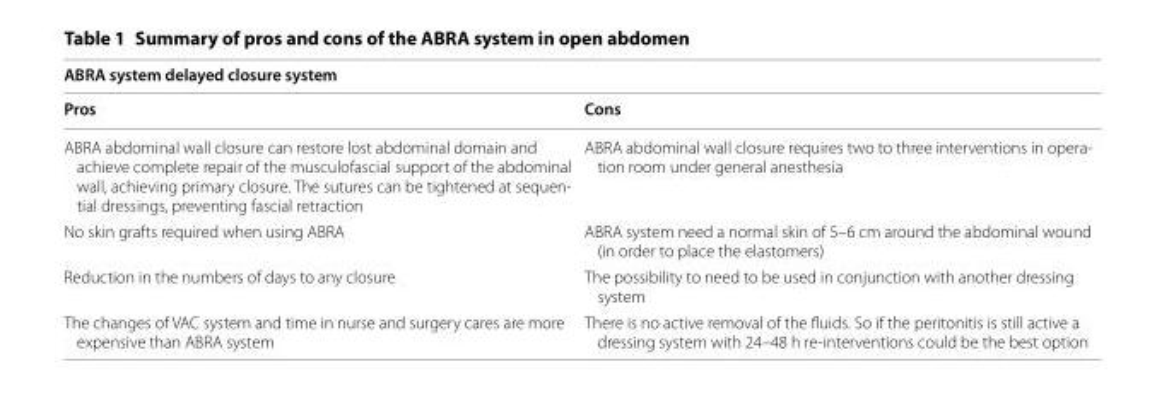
<table><thead><tr><td colspan="2">ABRA system delayed closure system</td></tr><tr><td>Pros</td><td>Cons</td></tr></thead><tbody><tr><td>ABRA abdominal wall closure can restore lost abdominal domain and achieve complete repair of the musculofascial support of the abdominal wall, achieving primary closure. The sutures can be tightened at sequen‑ tial dressings, preventing fascial retraction</td><td>ABRA abdominal wall closure requires two to three interventions in opera‑ tion room under general anesthesia</td></tr><tr><td>No skin grafts required when using ABRA</td><td>ABRA system need a normal skin of 5–6 cm around the abdominal wound (in order to place the elastomers)</td></tr><tr><td>Reduction in the numbers of days to any closure</td><td>The possibility to need to be used in conjunction with another dressing system</td></tr><tr><td>The changes of VAC system and time in nurse and surgery cares are more expensive than ABRA system</td><td>There is no active removal of the fluids. So if the peritonitis is still active a dressing system with 24–48 h re‑interventions could be the best option</td></tr></tbody></table>